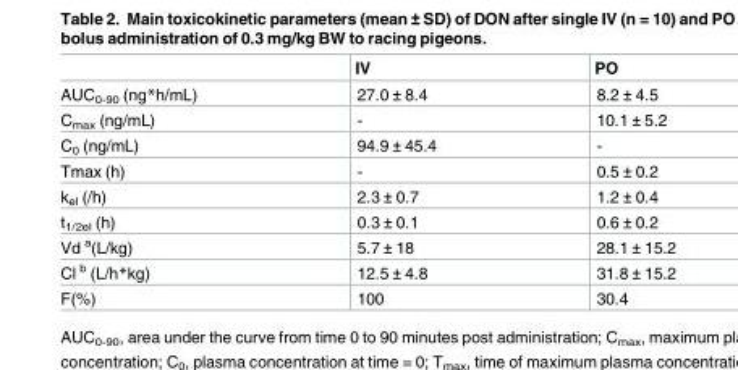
<table><thead><tr><td></td><td>IV</td><td>PO</td></tr></thead><tbody><tr><td>AUC<sub>0-90</sub> (ng*h/mL)</td><td>27.0 ± 8.4</td><td>8.2 ± 4.5</td></tr><tr><td>C<sub>max</sub> (ng/mL)</td><td>-</td><td>10.1 ± 5.2</td></tr><tr><td>C<sub>0</sub> (ng/mL)</td><td>94.9 ± 45.4</td><td>-</td></tr><tr><td>Tmax (h)</td><td>-</td><td>0.5 ± 0.2</td></tr><tr><td>k<sub>el</sub> (/h)</td><td>2.3 ± 0.7</td><td>1.2 ± 0.4</td></tr><tr><td>t<sub>1/2el</sub> (h)</td><td>0.3 ± 0.1</td><td>0.6 ± 0.2</td></tr><tr><td>Vd <sup>a</sup>(L/kg)</td><td>5.7 ± 18</td><td>28.1 ± 15.2</td></tr><tr><td>Cl <sup>b</sup> (L/h*kg)</td><td>12.5 ± 4.8</td><td>31.8 ± 15.2</td></tr><tr><td>F(%)</td><td>100</td><td>30.4</td></tr></tbody></table>